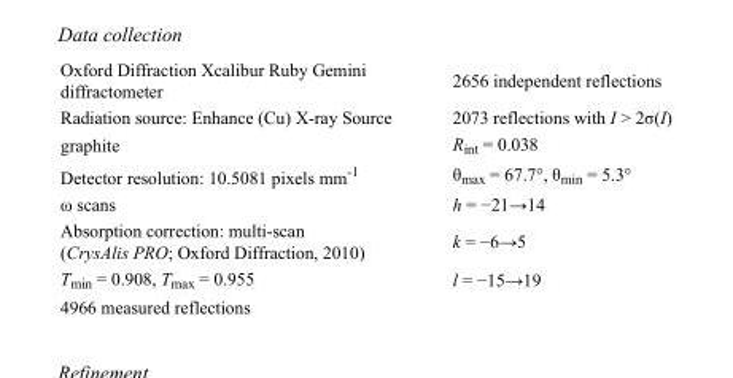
<table><tbody><tr><td>Oxford Diffraction Xcalibur Ruby Gemini diffractometer</td><td>2656 independent reflections</td></tr><tr><td>Radiation source: Enhance (Cu) X-ray Source</td><td>2073 reflections with I &gt; 2σ(I)</td></tr><tr><td>graphite</td><td>R<sub>int</sub> = 0.038</td></tr><tr><td>Detector resolution: 10.5081 pixels mm<sup>-1</sup></td><td>θ<sub>max</sub> = 67.7°, θ<sub>min</sub> = 5.3°</td></tr><tr><td>ω scans</td><td>h = −21→14</td></tr><tr><td>Absorption correction: multi-scan (CrysAlis PRO; Oxford Diffraction, 2010)</td><td>k = −6→5</td></tr><tr><td>T<sub>min</sub> = 0.908, T<sub>max</sub> = 0.955</td><td>l = −15→19</td></tr><tr><td>4966 measured reflections</td><td></td></tr></tbody></table>